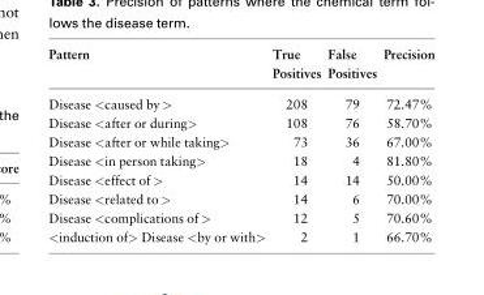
<table><thead><tr><td>Pattern</td><td>True Positives</td><td>False Positives</td><td>Precision</td></tr></thead><tbody><tr><td>Disease &lt;caused by &gt;</td><td>208</td><td>79</td><td>72.47%</td></tr><tr><td>Disease &lt;after or during&gt;</td><td>108</td><td>76</td><td>58.70%</td></tr><tr><td>Disease &lt;after or while taking&gt;</td><td>73</td><td>36</td><td>67.00%</td></tr><tr><td>Disease &lt;in person taking&gt;</td><td>18</td><td>4</td><td>81.80%</td></tr><tr><td>Disease &lt;effect of &gt;</td><td>14</td><td>14</td><td>50.00%</td></tr><tr><td>Disease &lt;related to &gt;</td><td>14</td><td>6</td><td>70.00%</td></tr><tr><td>Disease &lt;complications of &gt;</td><td>12</td><td>5</td><td>70.60%</td></tr><tr><td>&lt;induction of&gt; Disease &lt;by or with&gt;</td><td>2</td><td>1</td><td>66.70%</td></tr></tbody></table>